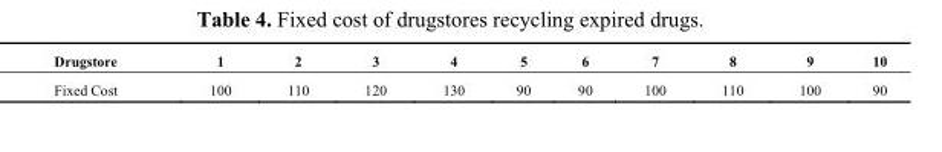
<table><thead><tr><td>Drugstore</td><td>1</td><td>2</td><td>3</td><td>4</td><td>5</td><td>6</td><td>7</td><td>8</td><td>9</td><td>10</td></tr></thead><tbody><tr><td>Fixed Cost</td><td>100</td><td>110</td><td>120</td><td>130</td><td>90</td><td>90</td><td>100</td><td>110</td><td>100</td><td>90</td></tr></tbody></table>